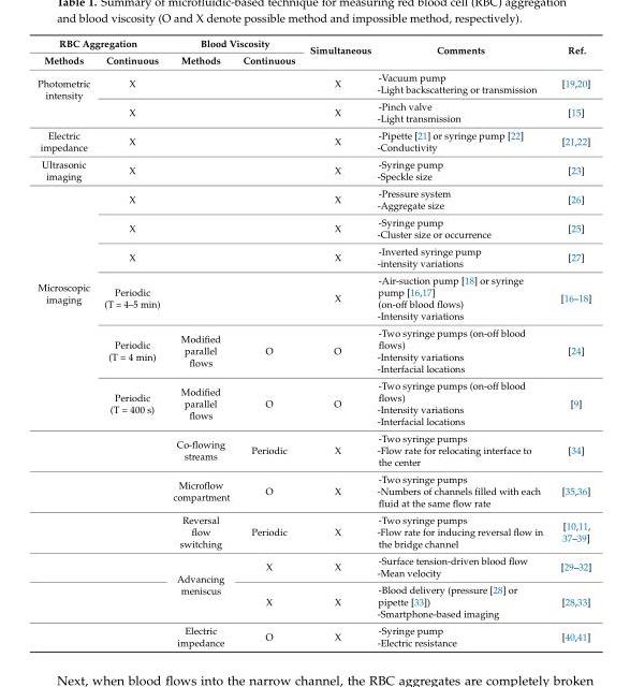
<table><thead><tr><td colspan="2">RBC Aggregation</td><td colspan="2">Blood Viscosity</td><td rowspan="2">Simultaneous</td><td rowspan="2">Comments</td><td rowspan="2">Ref.</td></tr><tr><td>Methods</td><td>Continuous</td><td>Methods</td><td>Continuous</td></tr></thead><tbody><tr><td rowspan="2">Photometric intensity</td><td>X</td><td></td><td></td><td>X</td><td>-Vacuum pump -Light backscattering or transmission</td><td>[19,20]</td></tr><tr><td>X</td><td></td><td></td><td>X</td><td>-Pinch valve -Light transmission</td><td>[15]</td></tr><tr><td>Electric impedance</td><td>X</td><td></td><td></td><td>X</td><td>-Pipette [21] or syringe pump [22] -Conductivity</td><td>[21,22]</td></tr><tr><td>Ultrasonic imaging</td><td>X</td><td></td><td></td><td>X</td><td>-Syringe pump -Speckle size</td><td>[23]</td></tr><tr><td rowspan="12">Microscopic imaging</td><td>X</td><td></td><td></td><td>X</td><td>-Pressure system -Aggregate size</td><td>[26]</td></tr><tr><td>X</td><td></td><td></td><td>X</td><td>-Syringe pump -Cluster size or occurrence</td><td>[25]</td></tr><tr><td>X</td><td></td><td></td><td>X</td><td>-Inverted syringe pump -intensity variations</td><td>[27]</td></tr><tr><td>Periodic (T = 4–5 min)</td><td></td><td></td><td>X</td><td>-Air-suction pump [18] or syringe pump [16,17] (on-off blood flows) -Intensity variations</td><td>[16–18]</td></tr><tr><td>Periodic (T = 4 min)</td><td>Modified parallel flows</td><td>O</td><td>O</td><td>-Two syringe pumps (on-off blood flows) -Intensity variations -Interfacial locations</td><td>[24]</td></tr><tr><td>Periodic (T = 400 s)</td><td>Modified parallel flows</td><td>O</td><td>O</td><td>-Two syringe pumps (on-off blood flows) -Intensity variations -Interfacial locations</td><td>[9]</td></tr><tr><td></td><td>Co-flowing streams</td><td>Periodic</td><td>X</td><td>-Two syringe pumps -Flow rate for relocating interface to the center</td><td>[34]</td></tr><tr><td></td><td>Microflow compartment</td><td>O</td><td>X</td><td>-Two syringe pumps -Numbers of channels filled with each fluid at the same flow rate</td><td>[35,36]</td></tr><tr><td></td><td>Reversal flow switching</td><td>Periodic</td><td>X</td><td>-Two syringe pumps -Flow rate for inducing reversal flow in the bridge channel</td><td>[10,11, 37–39]</td></tr><tr><td></td><td rowspan="2">Advancing meniscus</td><td>X</td><td>X</td><td>-Surface tension-driven blood flow -Mean velocity</td><td>[29–32]</td></tr><tr><td></td><td>X</td><td>X</td><td>-Blood delivery (pressure [28] or pipette [33]) -Smartphone-based imaging</td><td>[28,33]</td></tr><tr><td></td><td>Electric impedance</td><td>O</td><td>X</td><td>-Syringe pump -Electric resistance</td><td>[40,41]</td></tr></tbody></table>